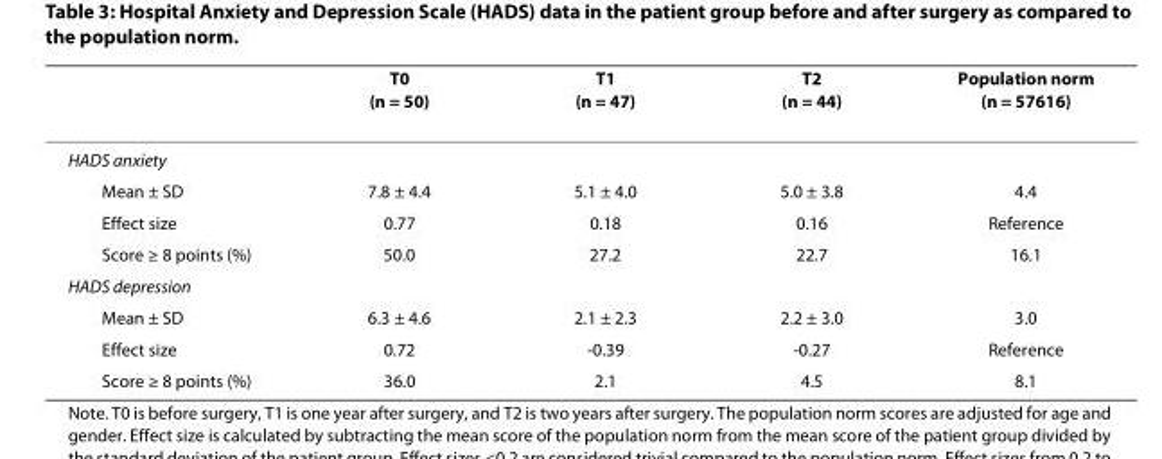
<table><thead><tr><td></td><td>T0 (n = 50)</td><td>T1 (n = 47)</td><td>T2 (n = 44)</td><td>Population norm (n = 57616)</td></tr></thead><tbody><tr><td colspan="5">HADS anxiety</td></tr><tr><td>Mean ± SD</td><td>7.8 ± 4.4</td><td>5.1 ± 4.0</td><td>5.0 ± 3.8</td><td>4.4</td></tr><tr><td>Effect size</td><td>0.77</td><td>0.18</td><td>0.16</td><td>Reference</td></tr><tr><td>Score ≥ 8 points (%)</td><td>50.0</td><td>27.2</td><td>22.7</td><td>16.1</td></tr><tr><td colspan="5">HADS depression</td></tr><tr><td>Mean ± SD</td><td>6.3 ± 4.6</td><td>2.1 ± 2.3</td><td>2.2 ± 3.0</td><td>3.0</td></tr><tr><td>Effect size</td><td>0.72</td><td>-0.39</td><td>-0.27</td><td>Reference</td></tr><tr><td>Score ≥ 8 points (%)</td><td>36.0</td><td>2.1</td><td>4.5</td><td>8.1</td></tr></tbody></table>